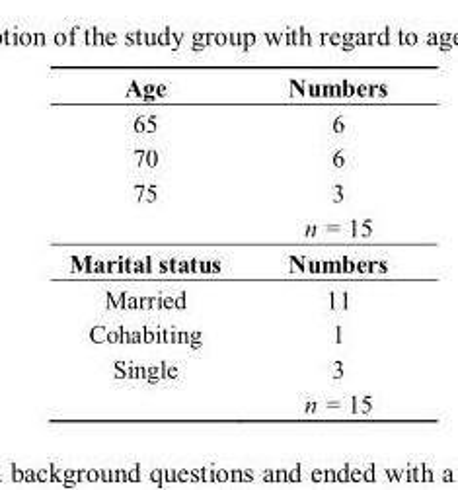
<table><tbody><tr><td>Age</td><td>Numbers</td></tr><tr><td>65</td><td>6</td></tr><tr><td>70</td><td>6</td></tr><tr><td rowspan="2">75</td><td>3</td></tr><tr><td>n = 15</td></tr><tr><td>Marital status</td><td>Numbers</td></tr><tr><td>Married</td><td>11</td></tr><tr><td>Cohabiting</td><td>1</td></tr><tr><td rowspan="2">Single</td><td>3</td></tr><tr><td>n = 15</td></tr></tbody></table>